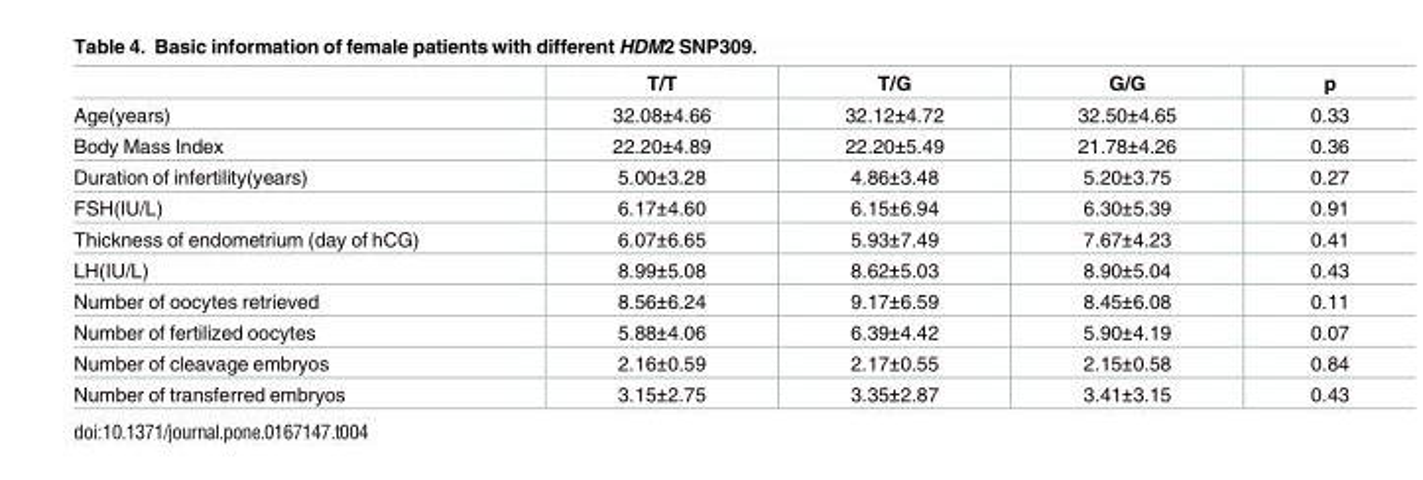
<table><thead><tr><td></td><td>T/T</td><td>T/G</td><td>G/G</td><td>p</td></tr></thead><tbody><tr><td>Age(years)</td><td>32.08±4.66</td><td>32.12±4.72</td><td>32.50±4.65</td><td>0.33</td></tr><tr><td>Body Mass Index</td><td>22.20±4.89</td><td>22.20±5.49</td><td>21.78±4.26</td><td>0.36</td></tr><tr><td>Duration of infertility(years)</td><td>5.00±3.28</td><td>4.86±3.48</td><td>5.20±3.75</td><td>0.27</td></tr><tr><td>FSH(IU/L)</td><td>6.17±4.60</td><td>6.15±6.94</td><td>6.30±5.39</td><td>0.91</td></tr><tr><td>Thickness of endometrium (day of hCG)</td><td>6.07±6.65</td><td>5.93±7.49</td><td>7.67±4.23</td><td>0.41</td></tr><tr><td>LH(IU/L)</td><td>8.99±5.08</td><td>8.62±5.03</td><td>8.90±5.04</td><td>0.43</td></tr><tr><td>Number of oocytes retrieved</td><td>8.56±6.24</td><td>9.17±6.59</td><td>8.45±6.08</td><td>0.11</td></tr><tr><td>Number of fertilized oocytes</td><td>5.88±4.06</td><td>6.39±4.42</td><td>5.90±4.19</td><td>0.07</td></tr><tr><td>Number of cleavage embryos</td><td>2.16±0.59</td><td>2.17±0.55</td><td>2.15±0.58</td><td>0.84</td></tr><tr><td>Number of transferred embryos</td><td>3.15±2.75</td><td>3.35±2.87</td><td>3.41±3.15</td><td>0.43</td></tr></tbody></table>